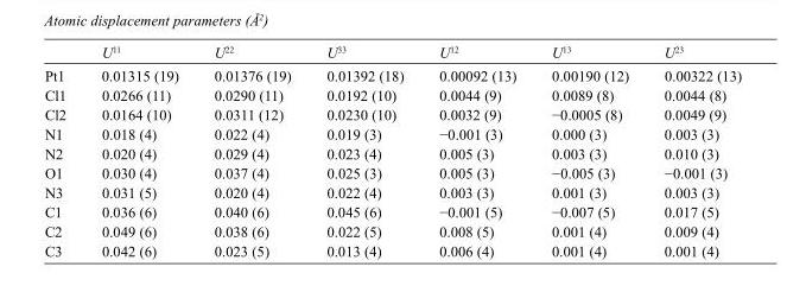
<table><thead><tr><td></td><td>U<sup>11</sup></td><td>U<sup>22</sup></td><td>U<sup>33</sup></td><td>U<sup>12</sup></td><td>U<sup>13</sup></td><td>U<sup>23</sup></td></tr></thead><tbody><tr><td>Pt1</td><td>0.01315 (19)</td><td>0.01376 (19)</td><td>0.01392 (18)</td><td>0.00092 (13)</td><td>0.00190 (12)</td><td>0.00322 (13)</td></tr><tr><td>Cl1</td><td>0.0266 (11)</td><td>0.0290 (11)</td><td>0.0192 (10)</td><td>0.0044 (9)</td><td>0.0089 (8)</td><td>0.0044 (8)</td></tr><tr><td>Cl2</td><td>0.0164 (10)</td><td>0.0311 (12)</td><td>0.0230 (10)</td><td>0.0032 (9)</td><td>−0.0005 (8)</td><td>0.0049 (9)</td></tr><tr><td>N1</td><td>0.018 (4)</td><td>0.022 (4)</td><td>0.019 (3)</td><td>−0.001 (3)</td><td>0.000 (3)</td><td>0.003 (3)</td></tr><tr><td>N2</td><td>0.020 (4)</td><td>0.029 (4)</td><td>0.023 (4)</td><td>0.005 (3)</td><td>0.003 (3)</td><td>0.010 (3)</td></tr><tr><td>O1</td><td>0.030 (4)</td><td>0.037 (4)</td><td>0.025 (3)</td><td>0.005 (3)</td><td>−0.005 (3)</td><td>−0.001 (3)</td></tr><tr><td>N3</td><td>0.031 (5)</td><td>0.020 (4)</td><td>0.022 (4)</td><td>0.003 (3)</td><td>0.001 (3)</td><td>0.003 (3)</td></tr><tr><td>C1</td><td>0.036 (6)</td><td>0.040 (6)</td><td>0.045 (6)</td><td>−0.001 (5)</td><td>−0.007 (5)</td><td>0.017 (5)</td></tr><tr><td>C2</td><td>0.049 (6)</td><td>0.038 (6)</td><td>0.022 (5)</td><td>0.008 (5)</td><td>0.001 (4)</td><td>0.009 (4)</td></tr><tr><td>C3</td><td>0.042 (6)</td><td>0.023 (5)</td><td>0.013 (4)</td><td>0.006 (4)</td><td>0.001 (4)</td><td>0.001 (4)</td></tr></tbody></table>